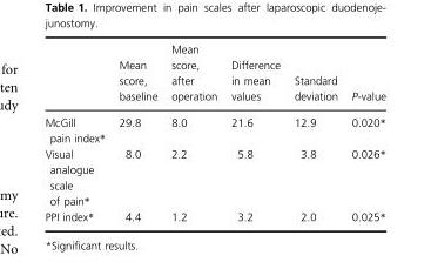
<table><thead><tr><td></td><td>Mean score, baseline</td><td>Mean score, after operation</td><td>Difference in mean values</td><td>Standard deviation</td><td>P-value</td></tr></thead><tbody><tr><td>McGill pain index*</td><td>29.8</td><td>8.0</td><td>21.6</td><td>12.9</td><td>0.020*</td></tr><tr><td>Visual analogue scale of pain*</td><td>8.0</td><td>2.2</td><td>5.8</td><td>3.8</td><td>0.026*</td></tr><tr><td>PPI index*</td><td>4.4</td><td>1.2</td><td>3.2</td><td>2.0</td><td>0.025*</td></tr></tbody></table>